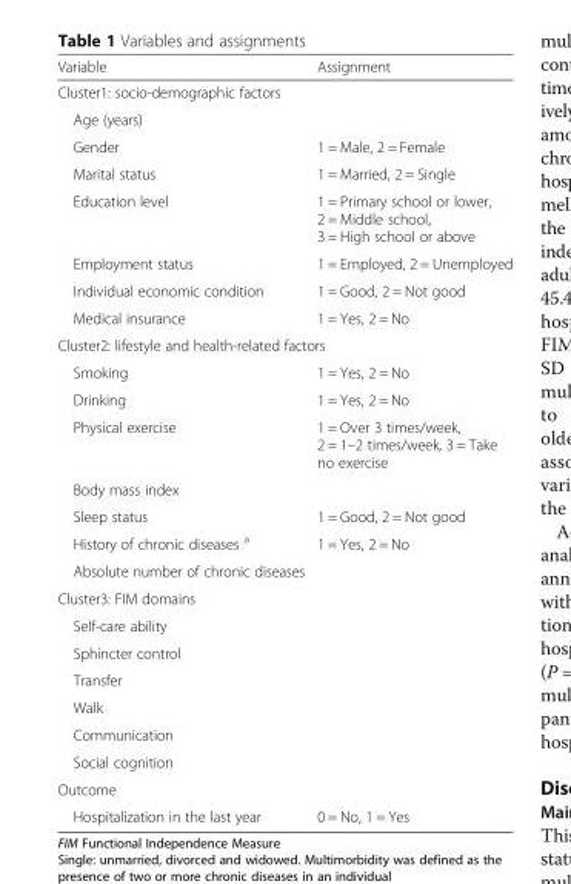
<table><thead><tr><td>Variable</td><td>Assignment</td></tr></thead><tbody><tr><td colspan="2">Cluster1: socio-demographic factors</td></tr><tr><td colspan="2">Age (years)</td></tr><tr><td>Gender</td><td>1 = Male, 2 = Female</td></tr><tr><td>Marital status</td><td>1 = Married, 2 = Single</td></tr><tr><td>Education level</td><td>1 = Primary school or lower, 2 = Middle school, 3 = High school or above</td></tr><tr><td>Employment status</td><td>1 = Employed, 2 = Unemployed</td></tr><tr><td>Individual economic condition</td><td>1 = Good, 2 = Not good</td></tr><tr><td>Medical insurance</td><td>1 = Yes, 2 = No</td></tr><tr><td colspan="2">Cluster2: lifestyle and health-related factors</td></tr><tr><td>Smoking</td><td>1 = Yes, 2 = No</td></tr><tr><td>Drinking</td><td>1 = Yes, 2 = No</td></tr><tr><td>Physical exercise</td><td>1 = Over 3 times/week, 2 = 1–2 times/week, 3 = Take no exercise</td></tr><tr><td colspan="2">Body mass index</td></tr><tr><td>Sleep status</td><td>1 = Good, 2 = Not good</td></tr><tr><td>History of chronic diseases <sup>a</sup></td><td>1 = Yes, 2 = No</td></tr><tr><td colspan="2">Absolute number of chronic diseases</td></tr><tr><td colspan="2">Cluster3: FIM domains</td></tr><tr><td colspan="2">Self-care ability</td></tr><tr><td colspan="2">Sphincter control</td></tr><tr><td colspan="2">Transfer</td></tr><tr><td colspan="2">Walk</td></tr><tr><td colspan="2">Communication</td></tr><tr><td colspan="2">Social cognition</td></tr><tr><td colspan="2">Outcome</td></tr><tr><td>Hospitalization in the last year</td><td>0 = No, 1 = Yes</td></tr></tbody></table>